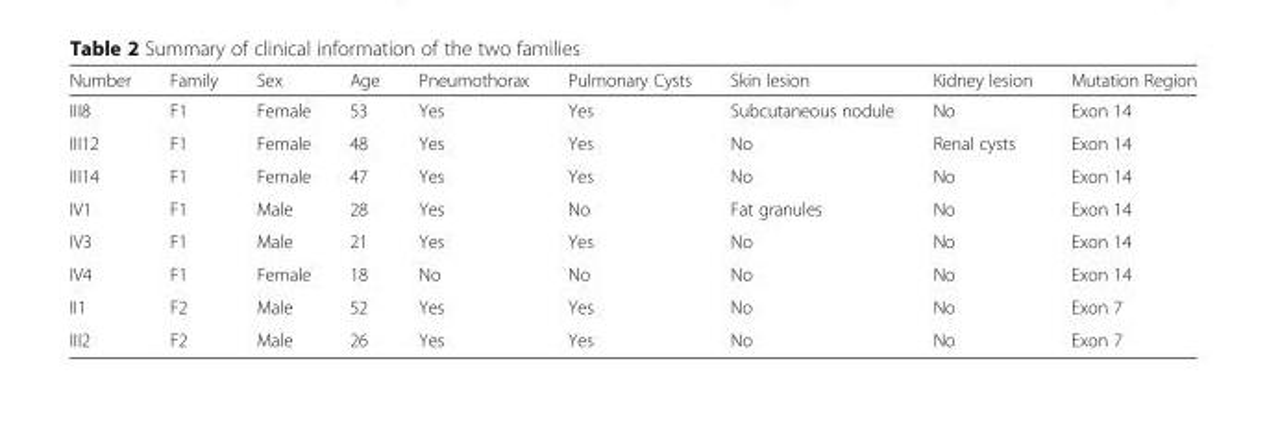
<table><thead><tr><td>Number</td><td>Family</td><td>Sex</td><td>Age</td><td>Pneumothorax</td><td>Pulmonary Cysts</td><td>Skin lesion</td><td>Kidney lesion</td><td>Mutation Region</td></tr></thead><tbody><tr><td>III8</td><td>F1</td><td>Female</td><td>53</td><td>Yes</td><td>Yes</td><td>Subcutaneous nodule</td><td>No</td><td>Exon 14</td></tr><tr><td>III12</td><td>F1</td><td>Female</td><td>48</td><td>Yes</td><td>Yes</td><td>No</td><td>Renal cysts</td><td>Exon 14</td></tr><tr><td>III14</td><td>F1</td><td>Female</td><td>47</td><td>Yes</td><td>Yes</td><td>No</td><td>No</td><td>Exon 14</td></tr><tr><td>IV1</td><td>F1</td><td>Male</td><td>28</td><td>Yes</td><td>No</td><td>Fat granules</td><td>No</td><td>Exon 14</td></tr><tr><td>IV3</td><td>F1</td><td>Male</td><td>21</td><td>Yes</td><td>Yes</td><td>No</td><td>No</td><td>Exon 14</td></tr><tr><td>IV4</td><td>F1</td><td>Female</td><td>18</td><td>No</td><td>No</td><td>No</td><td>No</td><td>Exon 14</td></tr><tr><td>II1</td><td>F2</td><td>Male</td><td>52</td><td>Yes</td><td>Yes</td><td>No</td><td>No</td><td>Exon 7</td></tr><tr><td>III2</td><td>F2</td><td>Male</td><td>26</td><td>Yes</td><td>Yes</td><td>No</td><td>No</td><td>Exon 7</td></tr></tbody></table>